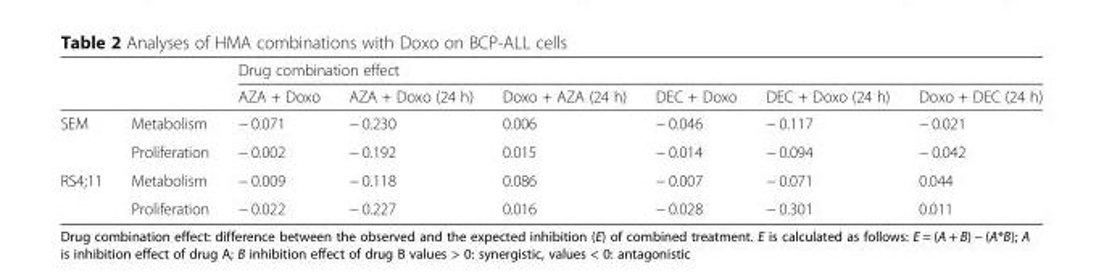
<table><thead><tr><td rowspan="2"></td><td rowspan="2"></td><td colspan="6">Drug combination effect</td></tr><tr><td>AZA + Doxo</td><td>AZA + Doxo (24 h)</td><td>Doxo + AZA (24 h)</td><td>DEC + Doxo</td><td>DEC + Doxo (24 h)</td><td>Doxo + DEC (24 h)</td></tr></thead><tbody><tr><td rowspan="2">SEM</td><td>Metabolism</td><td>− 0.071</td><td>− 0.230</td><td>0.006</td><td>− 0.046</td><td>− 0.117</td><td>− 0.021</td></tr><tr><td>Proliferation</td><td>− 0.002</td><td>− 0.192</td><td>0.015</td><td>− 0.014</td><td>− 0.094</td><td>− 0.042</td></tr><tr><td rowspan="2">RS4;11</td><td>Metabolism</td><td>− 0.009</td><td>− 0.118</td><td>0.086</td><td>− 0.007</td><td>− 0.071</td><td>0.044</td></tr><tr><td>Proliferation</td><td>− 0.022</td><td>− 0.227</td><td>0.016</td><td>− 0.028</td><td>− 0.301</td><td>0.011</td></tr></tbody></table>